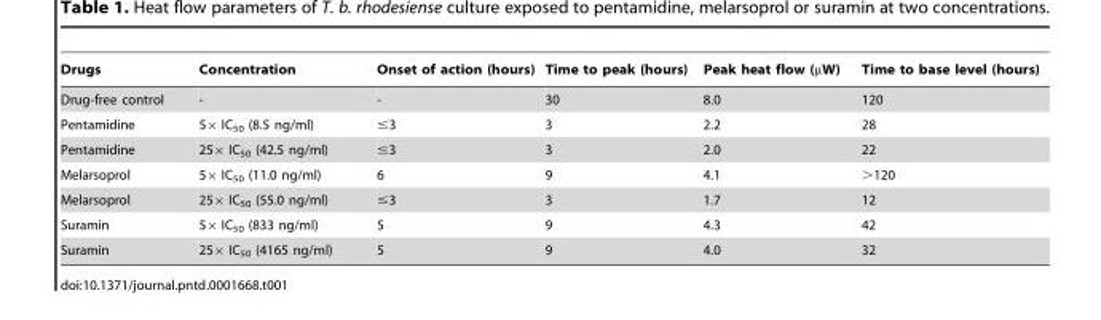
<table><thead><tr><td>Drugs</td><td>Concentration</td><td>Onset of action (hours)</td><td>Time to peak (hours)</td><td>Peak heat flow (µW)</td><td>Time to base level (hours)</td></tr></thead><tbody><tr><td>Drug-free control</td><td>-</td><td>-</td><td>30</td><td>8.0</td><td>120</td></tr><tr><td>Pentamidine</td><td>5× IC<sub>50</sub> (8.5 ng/ml)</td><td>≤3</td><td>3</td><td>2.2</td><td>28</td></tr><tr><td>Pentamidine</td><td>25× IC<sub>50</sub> (42.5 ng/ml)</td><td>≤3</td><td>3</td><td>2.0</td><td>22</td></tr><tr><td>Melarsoprol</td><td>5× IC<sub>50</sub> (11.0 ng/ml)</td><td>6</td><td>9</td><td>4.1</td><td>&gt;120</td></tr><tr><td>Melarsoprol</td><td>25× IC<sub>50</sub> (55.0 ng/ml)</td><td>≤3</td><td>3</td><td>1.7</td><td>12</td></tr><tr><td>Suramin</td><td>5× IC<sub>50</sub> (833 ng/ml)</td><td>5</td><td>9</td><td>4.3</td><td>42</td></tr><tr><td>Suramin</td><td>25× IC<sub>50</sub> (4165 ng/ml)</td><td>5</td><td>9</td><td>4.0</td><td>32</td></tr></tbody></table>